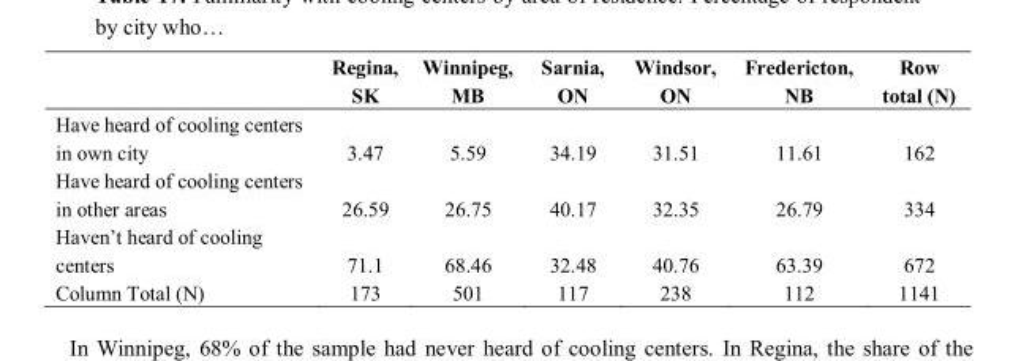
<table><thead><tr><td></td><td>Regina, SK</td><td>Winnipeg, MB</td><td>Sarnia, ON</td><td>Windsor, ON</td><td>Fredericton, NB</td><td>Row total (N)</td></tr></thead><tbody><tr><td>Have heard of cooling centers in own city</td><td>3.47</td><td>5.59</td><td>34.19</td><td>31.51</td><td>11.61</td><td>162</td></tr><tr><td>Have heard of cooling centers in other areas</td><td>26.59</td><td>26.75</td><td>40.17</td><td>32.35</td><td>26.79</td><td>334</td></tr><tr><td>Haven’t heard of cooling centers</td><td>71.1</td><td>68.46</td><td>32.48</td><td>40.76</td><td>63.39</td><td>672</td></tr><tr><td>Column Total (N)</td><td>173</td><td>501</td><td>117</td><td>238</td><td>112</td><td>1141</td></tr></tbody></table>